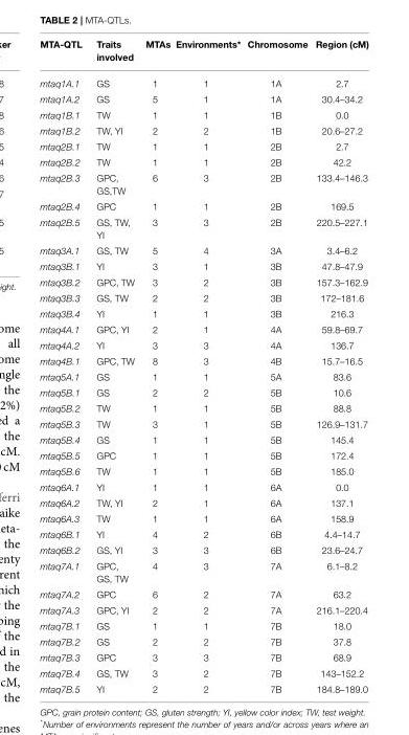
<table><thead><tr><td>MTA-QTL</td><td>Traits involved</td><td>MTAs</td><td>Environments*</td><td>Chromosome</td><td>Region (cM)</td></tr></thead><tbody><tr><td>mtaq1A.1</td><td>GS</td><td>1</td><td>1</td><td>1A</td><td>2.7</td></tr><tr><td>mtaq1A.2</td><td>GS</td><td>5</td><td>1</td><td>1A</td><td>30.4–34.2</td></tr><tr><td>mtaq1B.1</td><td>TW</td><td>1</td><td>1</td><td>1B</td><td>0.0</td></tr><tr><td>mtaq1B.2</td><td>TW, YI</td><td>2</td><td>2</td><td>1B</td><td>20.6–27.2</td></tr><tr><td>mtaq2B.1</td><td>TW</td><td>1</td><td>1</td><td>2B</td><td>2.7</td></tr><tr><td>mtaq2B.2</td><td>TW</td><td>1</td><td>1</td><td>2B</td><td>42.2</td></tr><tr><td>mtaq2B.3</td><td>GPC, GS,TW</td><td>6</td><td>3</td><td>2B</td><td>133.4–146.3</td></tr><tr><td>mtaq2B.4</td><td>GPC</td><td>1</td><td>1</td><td>2B</td><td>169.5</td></tr><tr><td>mtaq2B.5</td><td>GS, TW, YI</td><td>3</td><td>3</td><td>2B</td><td>220.5–227.1</td></tr><tr><td>mtaq3A.1</td><td>GS, TW</td><td>5</td><td>4</td><td>3A</td><td>3.4–6.2</td></tr><tr><td>mtaq3B.1</td><td>YI</td><td>3</td><td>1</td><td>3B</td><td>47.8–47.9</td></tr><tr><td>mtaq3B.2</td><td>GPC, TW</td><td>3</td><td>2</td><td>3B</td><td>157.3–162.9</td></tr><tr><td>mtaq3B.3</td><td>GS, TW</td><td>2</td><td>2</td><td>3B</td><td>172–181.6</td></tr><tr><td>mtaq3B.4</td><td>YI</td><td>1</td><td>1</td><td>3B</td><td>216.3</td></tr><tr><td>mtaq4A.1</td><td>GPC, YI</td><td>2</td><td>1</td><td>4A</td><td>59.8–69.7</td></tr><tr><td>mtaq4A.2</td><td>YI</td><td>3</td><td>3</td><td>4A</td><td>136.7</td></tr><tr><td>mtaq4B.1</td><td>GPC, TW</td><td>8</td><td>3</td><td>4B</td><td>15.7–16.5</td></tr><tr><td>mtaq5A.1</td><td>GS</td><td>1</td><td>1</td><td>5A</td><td>83.6</td></tr><tr><td>mtaq5B.1</td><td>GS</td><td>2</td><td>2</td><td>5B</td><td>10.6</td></tr><tr><td>mtaq5B.2</td><td>TW</td><td>1</td><td>1</td><td>5B</td><td>88.8</td></tr><tr><td>mtaq5B.3</td><td>TW</td><td>3</td><td>1</td><td>5B</td><td>126.9–131.7</td></tr><tr><td>mtaq5B.4</td><td>GS</td><td>1</td><td>1</td><td>5B</td><td>145.4</td></tr><tr><td>mtaq5B.5</td><td>GPC</td><td>1</td><td>1</td><td>5B</td><td>172.4</td></tr><tr><td>mtaq5B.6</td><td>TW</td><td>1</td><td>1</td><td>5B</td><td>185.0</td></tr><tr><td>mtaq6A.1</td><td>YI</td><td>1</td><td>1</td><td>6A</td><td>0.0</td></tr><tr><td>mtaq6A.2</td><td>TW, YI</td><td>2</td><td>1</td><td>6A</td><td>137.1</td></tr><tr><td>mtaq6A.3</td><td>TW</td><td>1</td><td>1</td><td>6A</td><td>158.9</td></tr><tr><td>mtaq6B.1</td><td>YI</td><td>4</td><td>2</td><td>6B</td><td>4.4–14.7</td></tr><tr><td>mtaq6B.2</td><td>GS, YI</td><td>3</td><td>3</td><td>6B</td><td>23.6–24.7</td></tr><tr><td>mtaq7A.1</td><td>GPC, GS, TW</td><td>4</td><td>3</td><td>7A</td><td>6.1–8.2</td></tr><tr><td>mtaq7A.2</td><td>GPC</td><td>6</td><td>2</td><td>7A</td><td>63.2</td></tr><tr><td>mtaq7A.3</td><td>GPC, YI</td><td>2</td><td>2</td><td>7A</td><td>216.1–220.4</td></tr><tr><td>mtaq7B.1</td><td>GS</td><td>1</td><td>1</td><td>7B</td><td>18.0</td></tr><tr><td>mtaq7B.2</td><td>GS</td><td>2</td><td>2</td><td>7B</td><td>37.8</td></tr><tr><td>mtaq7B.3</td><td>GPC</td><td>3</td><td>3</td><td>7B</td><td>68.9</td></tr><tr><td>mtaq7B.4</td><td>GS, TW</td><td>3</td><td>2</td><td>7B</td><td>143–152.2</td></tr><tr><td>mtaq7B.5</td><td>YI</td><td>2</td><td>2</td><td>7B</td><td>184.8–189.0</td></tr></tbody></table>